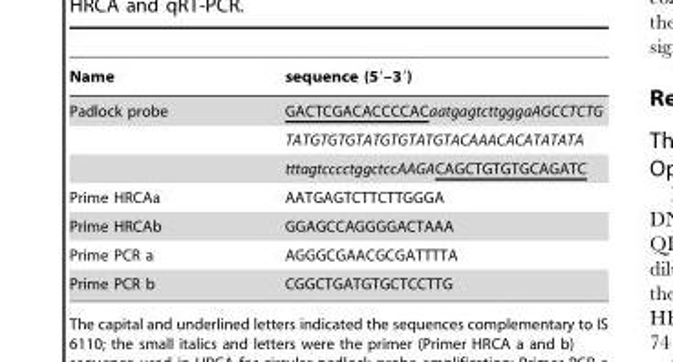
<table><thead><tr><td>Name</td><td>sequence (5′–3′)</td></tr></thead><tbody><tr><td rowspan="3">Padlock probe</td><td>GACTCGACACCCCACaatgagtcttgggaAGCCTCTG</td></tr><tr><td>TATGTGTGTATGTGTATGTACAAACACATATATA</td></tr><tr><td>tttagtcccctggctccAAGACAGCTGTGTGCAGATC</td></tr><tr><td>Prime HRCAa</td><td>AATGAGTCTTCTTGGGA</td></tr><tr><td>Prime HRCAb</td><td>GGAGCCAGGGGACTAAA</td></tr><tr><td>Prime PCR a</td><td>AGGGCGAACGCGATTTTA</td></tr><tr><td>Prime PCR b</td><td>CGGCTGATGTGCTCCTTG</td></tr></tbody></table>